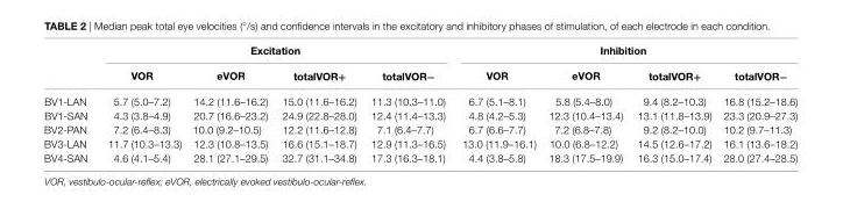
<table><thead><tr><td rowspan="2"></td><td colspan="4">excitation</td><td colspan="4">inhibition</td></tr><tr><td>VOr</td><td>eVOr</td><td>totalVOr+</td><td>totalVOr−</td><td>VOr</td><td>eVOr</td><td>totalVOr+</td><td>totalVOr−</td></tr></thead><tbody><tr><td>BV1-LAN</td><td>5.7 (5.0–7.2)</td><td>14.2 (11.6–16.2)</td><td>15.0 (11.6–16.2)</td><td>11.3 (10.3–11.0)</td><td>6.7 (5.1–8.1)</td><td>5.8 (5.4–8.0)</td><td>9.4 (8.2–10.3)</td><td>16.8 (15.2–18.6)</td></tr><tr><td>BV1-SAN</td><td>4.3 (3.8–4.9)</td><td>20.7 (16.6–23.2)</td><td>24.9 (22.8–28.0)</td><td>12.4 (11.4–13.3)</td><td>4.8 (4.2–5.3)</td><td>12.3 (10.4–13.4)</td><td>13.1 (11.8–13.9)</td><td>23.3 (20.9–27.3)</td></tr><tr><td>BV2-PAN</td><td>7.2 (6.4–8.3)</td><td>10.0 (9.2–10.5)</td><td>12.2 (11.6–12.8)</td><td>7.1 (6.4–7.7)</td><td>6.7 (6.6–7.7)</td><td>7.2 (6.8–7.8)</td><td>9.2 (8.2–10.0)</td><td>10.2 (9.7–11.3)</td></tr><tr><td>BV3-LAN</td><td>11.7 (10.3–13.3)</td><td>12.3 (10.8–13.5)</td><td>16.6 (15.1–18.7)</td><td>12.9 (11.3–16.5)</td><td>13.0 (11.9–16.1)</td><td>10.0 (6.8–12.2)</td><td>14.5 (12.6–17.2)</td><td>16.1 (13.6–18.2)</td></tr><tr><td>BV4-SAN</td><td>4.6 (4.1–5.4)</td><td>28.1 (27.1–29.5)</td><td>32.7 (31.1–34.8)</td><td>17.3 (16.3–18.1)</td><td>4.4 (3.8–5.8)</td><td>18.3 (17.5–19.9)</td><td>16.3 (15.0–17.4)</td><td>28.0 (27.4–28.5)</td></tr></tbody></table>